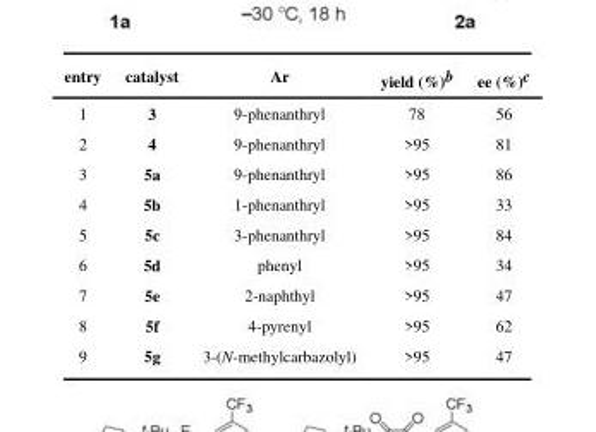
<table><thead><tr><td>entry</td><td>catalyst</td><td>Ar</td><td>yield (%)<sup>b</sup></td><td>ee (%)<sup>c</sup></td></tr></thead><tbody><tr><td>1</td><td>3</td><td>9-phenanthryl</td><td>78</td><td>56</td></tr><tr><td>2</td><td>4</td><td>9-phenanthryl</td><td>&gt;95</td><td>81</td></tr><tr><td>3</td><td>5a</td><td>9-phenanthryl</td><td>&gt;95</td><td>86</td></tr><tr><td>4</td><td>5b</td><td>1-phenanthryl</td><td>&gt;95</td><td>33</td></tr><tr><td>5</td><td>5c</td><td>3-phenanthryl</td><td>&gt;95</td><td>84</td></tr><tr><td>6</td><td>5d</td><td>phenyl</td><td>&gt;95</td><td>34</td></tr><tr><td>7</td><td>5e</td><td>2-naphthyl</td><td>&gt;95</td><td>47</td></tr><tr><td>8</td><td>5f</td><td>4-pyrenyl</td><td>&gt;95</td><td>62</td></tr><tr><td>9</td><td>5g</td><td>3-(N-methylcarbazolyl)</td><td>&gt;95</td><td>47</td></tr></tbody></table>